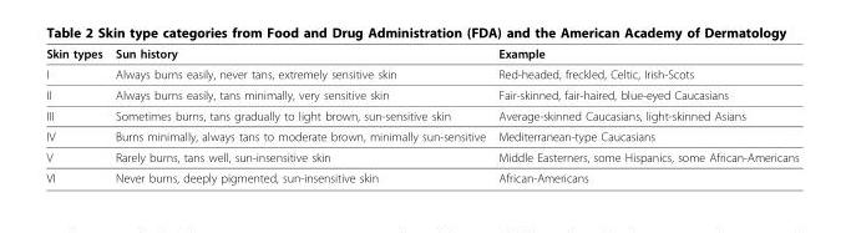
<table><thead><tr><td>Skin types</td><td>Sun history</td><td>Example</td></tr></thead><tbody><tr><td>I</td><td>Always burns easily, never tans, extremely sensitive skin</td><td>Red-headed, freckled, Celtic, Irish-Scots</td></tr><tr><td>II</td><td>Always burns easily, tans minimally, very sensitive skin</td><td>Fair-skinned, fair-haired, blue-eyed Caucasians</td></tr><tr><td>III</td><td>Sometimes burns, tans gradually to light brown, sun-sensitive skin</td><td>Average-skinned Caucasians, light-skinned Asians</td></tr><tr><td>IV</td><td>Burns minimally, always tans to moderate brown, minimally sun-sensitive</td><td>Mediterranean-type Caucasians</td></tr><tr><td>V</td><td>Rarely burns, tans well, sun-insensitive skin</td><td>Middle Easterners, some Hispanics, some African-Americans</td></tr><tr><td>VI</td><td>Never burns, deeply pigmented, sun-insensitive skin</td><td>African-Americans</td></tr></tbody></table>